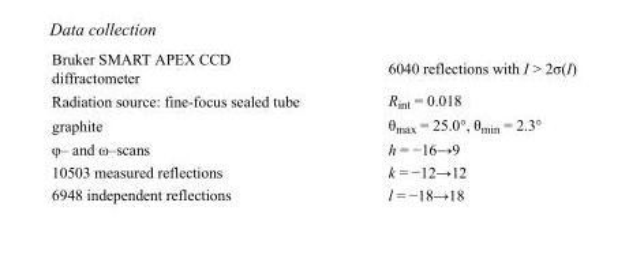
<table><tbody><tr><td>Bruker SMART APEX CCD diffractometer</td><td>6040 reflections with I &gt; 2σ(I)</td></tr><tr><td>Radiation source: fine-focus sealed tube</td><td>R<sub>int</sub> = 0.018</td></tr><tr><td>graphite</td><td>θ<sub>max</sub> = 25.0°, θ<sub>min</sub> = 2.3°</td></tr><tr><td>φ– and ω–scans</td><td>h = −16→9</td></tr><tr><td>10503 measured reflections</td><td>k = −12→12</td></tr><tr><td>6948 independent reflections</td><td>l = −18→18</td></tr></tbody></table>